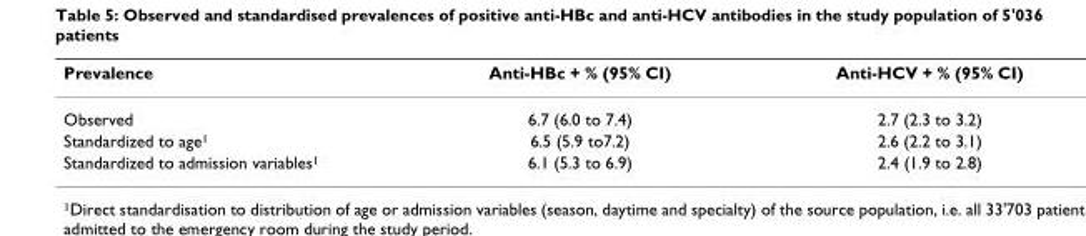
<table><thead><tr><td>Prevalence</td><td>Anti-HBc + % (95% CI)</td><td>Anti-HCV + % (95% CI)</td></tr></thead><tbody><tr><td>Observed</td><td>6.7 (6.0 to 7.4)</td><td>2.7 (2.3 to 3.2)</td></tr><tr><td>Standardized to age1</td><td>6.5 (5.9 to7.2)</td><td>2.6 (2.2 to 3.1)</td></tr><tr><td>Standardized to admission variables1</td><td>6.1 (5.3 to 6.9)</td><td>2.4 (1.9 to 2.8)</td></tr></tbody></table>